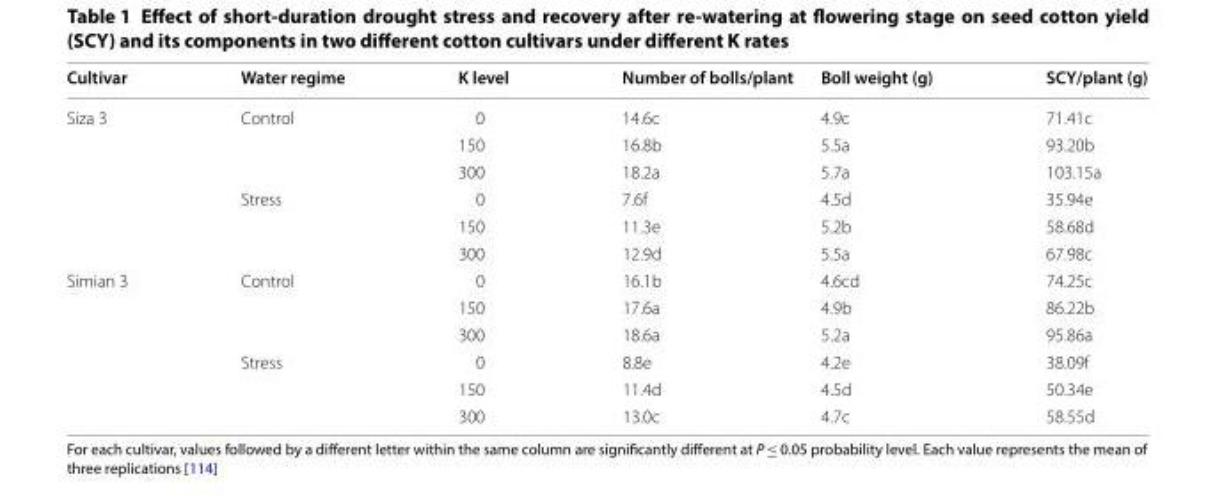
<table><thead><tr><td>Cultivar</td><td>Water regime</td><td>K level</td><td>Number of bolls/plant</td><td>Boll weight (g)</td><td>SCY/plant (g)</td></tr></thead><tbody><tr><td rowspan="6">Siza 3</td><td>Control</td><td>0</td><td>14.6c</td><td>4.9c</td><td>71.41c</td></tr><tr><td></td><td>150</td><td>16.8b</td><td>5.5a</td><td>93.20b</td></tr><tr><td></td><td>300</td><td>18.2a</td><td>5.7a</td><td>103.15a</td></tr><tr><td>Stress</td><td>0</td><td>7.6f</td><td>4.5d</td><td>35.94e</td></tr><tr><td></td><td>150</td><td>11.3e</td><td>5.2b</td><td>58.68d</td></tr><tr><td></td><td>300</td><td>12.9d</td><td>5.5a</td><td>67.98c</td></tr><tr><td rowspan="6">Simian 3</td><td>Control</td><td>0</td><td>16.1b</td><td>4.6cd</td><td>74.25c</td></tr><tr><td></td><td>150</td><td>17.6a</td><td>4.9b</td><td>86.22b</td></tr><tr><td></td><td>300</td><td>18.6a</td><td>5.2a</td><td>95.86a</td></tr><tr><td>Stress</td><td>0</td><td>8.8e</td><td>4.2e</td><td>38.09f</td></tr><tr><td></td><td>150</td><td>11.4d</td><td>4.5d</td><td>50.34e</td></tr><tr><td></td><td>300</td><td>13.0c</td><td>4.7c</td><td>58.55d</td></tr></tbody></table>